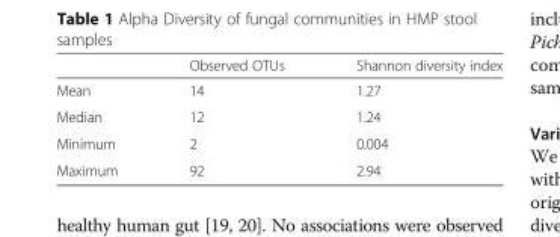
<table><thead><tr><td></td><td>Observed OTUs</td><td>Shannon diversity index</td></tr></thead><tbody><tr><td>Mean</td><td>14</td><td>1.27</td></tr><tr><td>Median</td><td>12</td><td>1.24</td></tr><tr><td>Minimum</td><td>2</td><td>0.004</td></tr><tr><td>Maximum</td><td>92</td><td>2.94</td></tr></tbody></table>